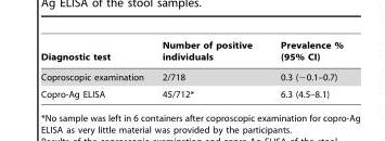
<table><thead><tr><td>Diagnostic test</td><td>Number of positive individuals</td><td>Prevalence % (95% CI)</td></tr></thead><tbody><tr><td>Coproscopic examination</td><td>2/718</td><td>0.3 (−0.1–0.7)</td></tr><tr><td>Copro-Ag ELISA</td><td>45/712*</td><td>6.3 (4.5–8.1)</td></tr></tbody></table>